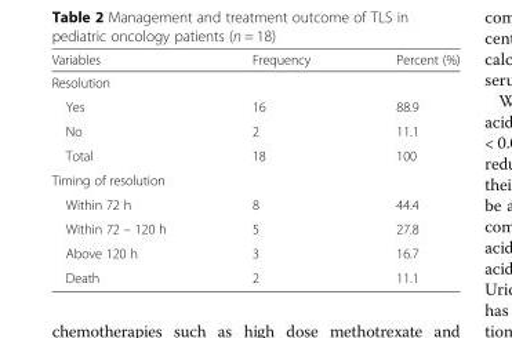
<table><thead><tr><td>Variables</td><td>Frequency</td><td>Percent (%)</td></tr></thead><tbody><tr><td colspan="3">Resolution</td></tr><tr><td>Yes</td><td>16</td><td>88.9</td></tr><tr><td>No</td><td>2</td><td>11.1</td></tr><tr><td>Total</td><td>18</td><td>100</td></tr><tr><td colspan="3">Timing of resolution</td></tr><tr><td>Within 72 h</td><td>8</td><td>44.4</td></tr><tr><td>Within 72 – 120 h</td><td>5</td><td>27.8</td></tr><tr><td>Above 120 h</td><td>3</td><td>16.7</td></tr><tr><td>Death</td><td>2</td><td>11.1</td></tr></tbody></table>